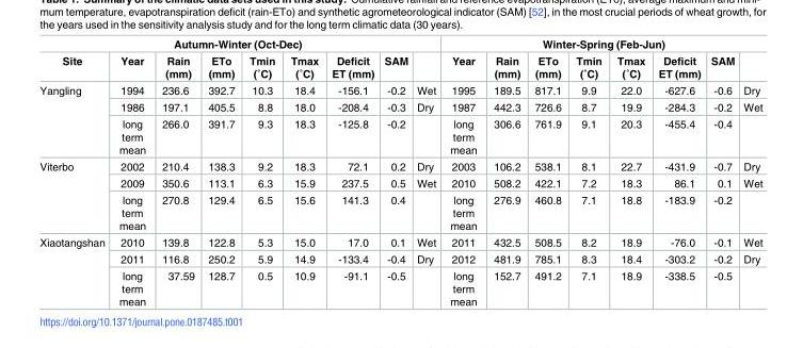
<table><thead><tr><td colspan="9">Autumn-Winter (Oct-Dec)</td><td colspan="8">Winter-Spring (Feb-Jun)</td></tr><tr><td>Site</td><td>Year</td><td>Rain (mm)</td><td>ETo (mm)</td><td>Tmin (˚C)</td><td>Tmax (˚C)</td><td>Deficit ET (mm)</td><td>SAM</td><td></td><td>Year</td><td>Rain (mm)</td><td>ETo (mm)</td><td>Tmin (˚C)</td><td>Tmax (˚C)</td><td>Deficit ET (mm)</td><td>SAM</td><td></td></tr></thead><tbody><tr><td rowspan="3">Yangling</td><td>1994</td><td>236.6</td><td>392.7</td><td>10.3</td><td>18.4</td><td>-156.1</td><td>-0.2</td><td>Wet</td><td>1995</td><td>189.5</td><td>817.1</td><td>9.9</td><td>22.0</td><td>-627.6</td><td>-0.6</td><td>Dry</td></tr><tr><td>1986</td><td>197.1</td><td>405.5</td><td>8.8</td><td>18.0</td><td>-208.4</td><td>-0.3</td><td>Dry</td><td>1987</td><td>442.3</td><td>726.6</td><td>8.7</td><td>19.9</td><td>-284.3</td><td>-0.2</td><td>Wet</td></tr><tr><td>long term mean</td><td>266.0</td><td>391.7</td><td>9.3</td><td>18.3</td><td>-125.8</td><td>-0.2</td><td></td><td>long term mean</td><td>306.6</td><td>761.9</td><td>9.1</td><td>20.3</td><td>-455.4</td><td>-0.4</td><td></td></tr><tr><td rowspan="3">Viterbo</td><td>2002</td><td>210.4</td><td>138.3</td><td>9.2</td><td>18.3</td><td>72.1</td><td>0.2</td><td>Dry</td><td>2003</td><td>106.2</td><td>538.1</td><td>8.1</td><td>22.7</td><td>-431.9</td><td>-0.7</td><td>Dry</td></tr><tr><td>2009</td><td>350.6</td><td>113.1</td><td>6.3</td><td>15.9</td><td>237.5</td><td>0.5</td><td>Wet</td><td>2010</td><td>508.2</td><td>422.1</td><td>7.2</td><td>18.3</td><td>86.1</td><td>0.1</td><td>Wet</td></tr><tr><td>long term mean</td><td>270.8</td><td>129.4</td><td>6.5</td><td>15.6</td><td>141.3</td><td>0.4</td><td></td><td>long term mean</td><td>276.9</td><td>460.8</td><td>7.1</td><td>18.8</td><td>-183.9</td><td>-0.2</td><td></td></tr><tr><td rowspan="3">Xiaotangshan</td><td>2010</td><td>139.8</td><td>122.8</td><td>5.3</td><td>15.0</td><td>17.0</td><td>0.1</td><td>Wet</td><td>2011</td><td>432.5</td><td>508.5</td><td>8.2</td><td>18.9</td><td>-76.0</td><td>-0.1</td><td>Wet</td></tr><tr><td>2011</td><td>116.8</td><td>250.2</td><td>5.9</td><td>14.9</td><td>-133.4</td><td>-0.4</td><td>Dry</td><td>2012</td><td>481.9</td><td>785.1</td><td>8.3</td><td>18.4</td><td>-303.2</td><td>-0.2</td><td>Dry</td></tr><tr><td>long term mean</td><td>37.59</td><td>128.7</td><td>0.5</td><td>10.9</td><td>-91.1</td><td>-0.5</td><td></td><td>long term mean</td><td>152.7</td><td>491.2</td><td>7.1</td><td>18.9</td><td>-338.5</td><td>-0.5</td><td></td></tr></tbody></table>